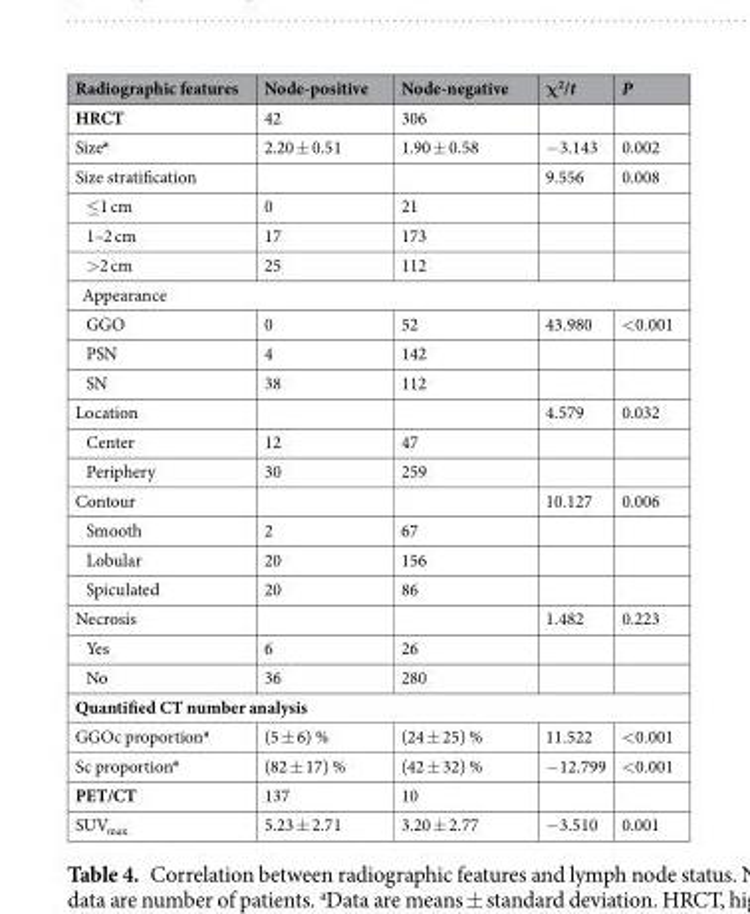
<table><thead><tr><td>Radiographic features</td><td>Node-positive</td><td>Node-negative</td><td>χ<sup>2</sup>/t</td><td>P</td></tr></thead><tbody><tr><td>HRCT</td><td>42</td><td>306</td><td></td><td></td></tr><tr><td>Size<sup>a</sup></td><td>2.20 ± 0.51</td><td>1.90 ± 0.58</td><td>−3.143</td><td>0.002</td></tr><tr><td>Size stratification</td><td></td><td></td><td>9.556</td><td>0.008</td></tr><tr><td>≤1 cm</td><td>0</td><td>21</td><td></td><td></td></tr><tr><td>1–2 cm</td><td>17</td><td>173</td><td></td><td></td></tr><tr><td>&gt;2 cm</td><td>25</td><td>112</td><td></td><td></td></tr><tr><td colspan="5">Appearance</td></tr><tr><td>GGO</td><td>0</td><td>52</td><td>43.980</td><td>&lt;0.001</td></tr><tr><td>PSN</td><td>4</td><td>142</td><td></td><td></td></tr><tr><td>SN</td><td>38</td><td>112</td><td></td><td></td></tr><tr><td>Location</td><td></td><td></td><td>4.579</td><td>0.032</td></tr><tr><td>Center</td><td>12</td><td>47</td><td></td><td></td></tr><tr><td>Periphery</td><td>30</td><td>259</td><td></td><td></td></tr><tr><td>Contour</td><td></td><td></td><td>10.127</td><td>0.006</td></tr><tr><td>Smooth</td><td>2</td><td>67</td><td></td><td></td></tr><tr><td>Lobular</td><td>20</td><td>156</td><td></td><td></td></tr><tr><td>Spiculated</td><td>20</td><td>86</td><td></td><td></td></tr><tr><td>Necrosis</td><td></td><td></td><td>1.482</td><td>0.223</td></tr><tr><td>Yes</td><td>6</td><td>26</td><td></td><td></td></tr><tr><td>No</td><td>36</td><td>280</td><td></td><td></td></tr><tr><td colspan="5">Quantified CT number analysis</td></tr><tr><td>GGOc proportion<sup>a</sup></td><td>(5 ± 6) %</td><td>(24 ± 25) %</td><td>11.522</td><td>&lt;0.001</td></tr><tr><td>Sc proportion<sup>a</sup></td><td>(82 ± 17) %</td><td>(42 ± 32) %</td><td>−12.799</td><td>&lt;0.001</td></tr><tr><td>PET/CT</td><td>137</td><td>10</td><td></td><td></td></tr><tr><td>SUV<sub>max</sub></td><td>5.23 ± 2.71</td><td>3.20 ± 2.77</td><td>−3.510</td><td>0.001</td></tr></tbody></table>